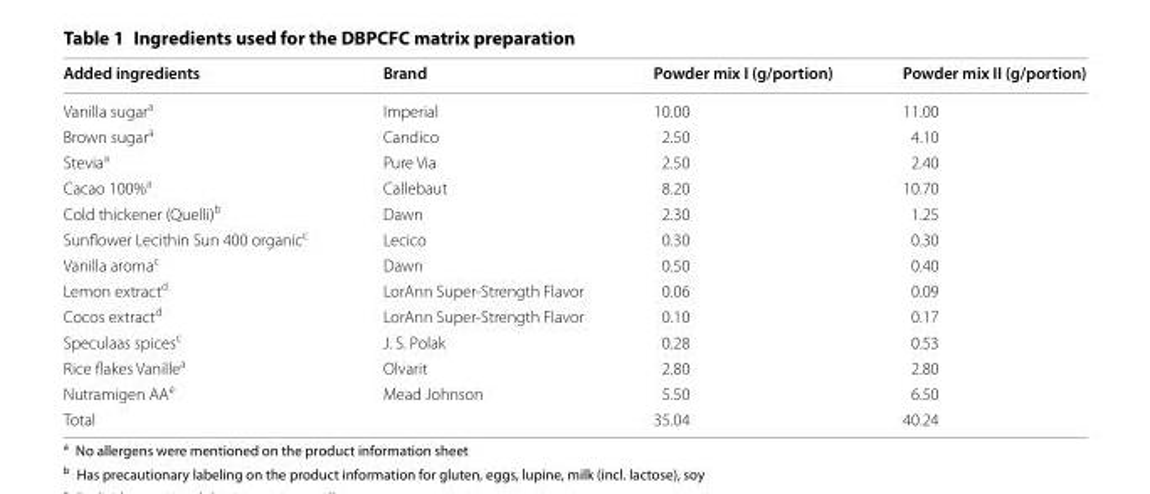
<table><thead><tr><td>Added ingredients</td><td>Brand</td><td>Powder mix I (g/portion)</td><td>Powder mix II (g/portion)</td></tr></thead><tbody><tr><td>Vanilla sugar<sup>a</sup></td><td>Imperial</td><td>10.00</td><td>11.00</td></tr><tr><td>Brown sugar<sup>a</sup></td><td>Candico</td><td>2.50</td><td>4.10</td></tr><tr><td>Stevia<sup>a</sup></td><td>Pure Via</td><td>2.50</td><td>2.40</td></tr><tr><td>Cacao 100%<sup>a</sup></td><td>Callebaut</td><td>8.20</td><td>10.70</td></tr><tr><td>Cold thickener (Quelli)<sup>b</sup></td><td>Dawn</td><td>2.30</td><td>1.25</td></tr><tr><td>Sunflower Lecithin Sun 400 organic<sup>c</sup></td><td>Lecico</td><td>0.30</td><td>0.30</td></tr><tr><td>Vanilla aroma<sup>c</sup></td><td>Dawn</td><td>0.50</td><td>0.40</td></tr><tr><td>Lemon extract<sup>d</sup></td><td>LorAnn Super-Strength Flavor</td><td>0.06</td><td>0.09</td></tr><tr><td>Cocos extract<sup>d</sup></td><td>LorAnn Super-Strength Flavor</td><td>0.10</td><td>0.17</td></tr><tr><td>Speculaas spices<sup>c</sup></td><td>J. S. Polak</td><td>0.28</td><td>0.53</td></tr><tr><td>Rice flakes Vanille<sup>a</sup></td><td>Olvarit</td><td>2.80</td><td>2.80</td></tr><tr><td>Nutramigen AA<sup>e</sup></td><td>Mead Johnson</td><td>5.50</td><td>6.50</td></tr><tr><td>Total</td><td></td><td>35.04</td><td>40.24</td></tr></tbody></table>